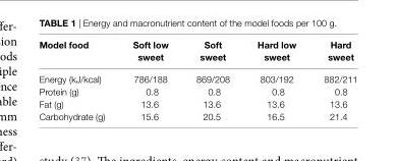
<table><thead><tr><td>Model food</td><td>soft low sweet</td><td>soft sweet</td><td>hard low sweet</td><td>hard sweet</td></tr></thead><tbody><tr><td>Energy (kJ/kcal)</td><td>786/188</td><td>869/208</td><td>803/192</td><td>882/211</td></tr><tr><td>Protein (g)</td><td>0.8</td><td>0.8</td><td>0.8</td><td>0.8</td></tr><tr><td>Fat (g)</td><td>13.6</td><td>13.6</td><td>13.6</td><td>13.6</td></tr><tr><td>Carbohydrate (g)</td><td>15.6</td><td>20.5</td><td>16.5</td><td>21.4</td></tr></tbody></table>